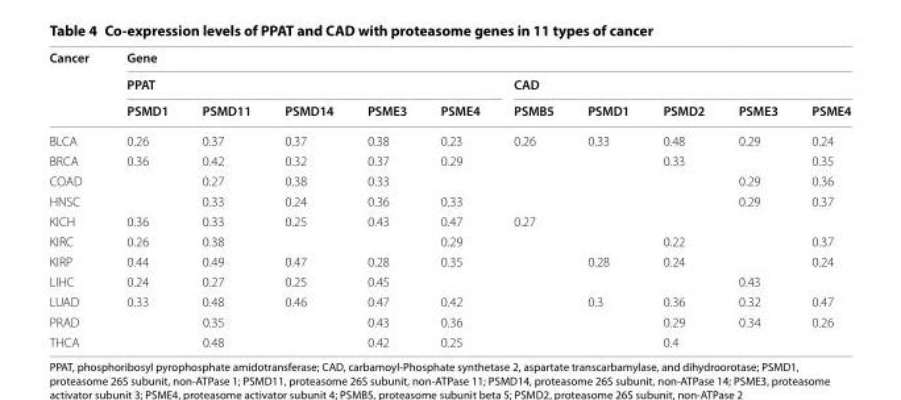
<table><thead><tr><td rowspan="3">Cancer</td><td colspan="10">Gene</td></tr><tr><td colspan="5">PPAT</td><td colspan="5">CAD</td></tr><tr><td>PSMD1</td><td>PSMD11</td><td>PSMD14</td><td>PSME3</td><td>PSME4</td><td>PSMB5</td><td>PSMD1</td><td>PSMD2</td><td>PSME3</td><td>PSME4</td></tr></thead><tbody><tr><td>BLCA</td><td>0.26</td><td>0.37</td><td>0.37</td><td>0.38</td><td>0.23</td><td>0.26</td><td>0.33</td><td>0.48</td><td>0.29</td><td>0.24</td></tr><tr><td>BRCA</td><td>0.36</td><td>0.42</td><td>0.32</td><td>0.37</td><td>0.29</td><td></td><td></td><td>0.33</td><td></td><td>0.35</td></tr><tr><td>COAD</td><td></td><td>0.27</td><td>0.38</td><td>0.33</td><td></td><td></td><td></td><td></td><td>0.29</td><td>0.36</td></tr><tr><td>HNSC</td><td></td><td>0.33</td><td>0.24</td><td>0.36</td><td>0.33</td><td></td><td></td><td></td><td>0.29</td><td>0.37</td></tr><tr><td>KICH</td><td>0.36</td><td>0.33</td><td>0.25</td><td>0.43</td><td>0.47</td><td>0.27</td><td></td><td></td><td></td><td></td></tr><tr><td>KIRC</td><td>0.26</td><td>0.38</td><td></td><td></td><td>0.29</td><td></td><td></td><td>0.22</td><td></td><td>0.37</td></tr><tr><td>KIRP</td><td>0.44</td><td>0.49</td><td>0.47</td><td>0.28</td><td>0.35</td><td></td><td>0.28</td><td>0.24</td><td></td><td>0.24</td></tr><tr><td>LIHC</td><td>0.24</td><td>0.27</td><td>0.25</td><td>0.45</td><td></td><td></td><td></td><td></td><td>0.43</td><td></td></tr><tr><td>LUAD</td><td>0.33</td><td>0.48</td><td>0.46</td><td>0.47</td><td>0.42</td><td></td><td>0.3</td><td>0.36</td><td>0.32</td><td>0.47</td></tr><tr><td>PRAD</td><td></td><td>0.35</td><td></td><td>0.43</td><td>0.36</td><td></td><td></td><td>0.29</td><td>0.34</td><td>0.26</td></tr><tr><td>THCA</td><td></td><td>0.48</td><td></td><td>0.42</td><td>0.25</td><td></td><td></td><td>0.4</td><td></td><td></td></tr></tbody></table>